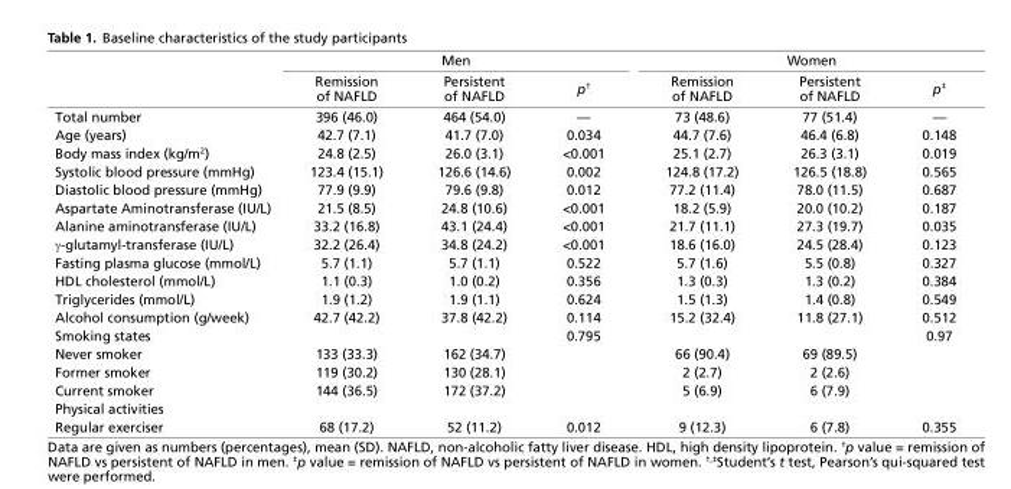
<table><thead><tr><td rowspan="2"></td><td colspan="3">Men</td><td colspan="3">Women</td></tr><tr><td>Remission of NAFLD</td><td>Persistent of NAFLD</td><td>p<sup>†</sup></td><td>Remission of NAFLD</td><td>Persistent of NAFLD</td><td>p<sup>‡</sup></td></tr></thead><tbody><tr><td>Total number</td><td>396 (46.0)</td><td>464 (54.0)</td><td>—</td><td>73 (48.6)</td><td>77 (51.4)</td><td>—</td></tr><tr><td>Age (years)</td><td>42.7 (7.1)</td><td>41.7 (7.0)</td><td>0.034</td><td>44.7 (7.6)</td><td>46.4 (6.8)</td><td>0.148</td></tr><tr><td>Body mass index (kg/m<sup>2</sup>)</td><td>24.8 (2.5)</td><td>26.0 (3.1)</td><td>&lt;0.001</td><td>25.1 (2.7)</td><td>26.3 (3.1)</td><td>0.019</td></tr><tr><td>Systolic blood pressure (mmHg)</td><td>123.4 (15.1)</td><td>126.6 (14.6)</td><td>0.002</td><td>124.8 (17.2)</td><td>126.5 (18.8)</td><td>0.565</td></tr><tr><td>Diastolic blood pressure (mmHg)</td><td>77.9 (9.9)</td><td>79.6 (9.8)</td><td>0.012</td><td>77.2 (11.4)</td><td>78.0 (11.5)</td><td>0.687</td></tr><tr><td>Aspartate Aminotransferase (IU/L)</td><td>21.5 (8.5)</td><td>24.8 (10.6)</td><td>&lt;0.001</td><td>18.2 (5.9)</td><td>20.0 (10.2)</td><td>0.187</td></tr><tr><td>Alanine aminotransferase (IU/L)</td><td>33.2 (16.8)</td><td>43.1 (24.4)</td><td>&lt;0.001</td><td>21.7 (11.1)</td><td>27.3 (19.7)</td><td>0.035</td></tr><tr><td>γ-glutamyl-transferase (IU/L)</td><td>32.2 (26.4)</td><td>34.8 (24.2)</td><td>&lt;0.001</td><td>18.6 (16.0)</td><td>24.5 (28.4)</td><td>0.123</td></tr><tr><td>Fasting plasma glucose (mmol/L)</td><td>5.7 (1.1)</td><td>5.7 (1.1)</td><td>0.522</td><td>5.7 (1.6)</td><td>5.5 (0.8)</td><td>0.327</td></tr><tr><td>HDL cholesterol (mmol/L)</td><td>1.1 (0.3)</td><td>1.0 (0.2)</td><td>0.356</td><td>1.3 (0.3)</td><td>1.3 (0.2)</td><td>0.384</td></tr><tr><td>Triglycerides (mmol/L)</td><td>1.9 (1.2)</td><td>1.9 (1.1)</td><td>0.624</td><td>1.5 (1.3)</td><td>1.4 (0.8)</td><td>0.549</td></tr><tr><td>Alcohol consumption (g/week)</td><td>42.7 (42.2)</td><td>37.8 (42.2)</td><td>0.114</td><td>15.2 (32.4)</td><td>11.8 (27.1)</td><td>0.512</td></tr><tr><td>Smoking states</td><td></td><td></td><td>0.795</td><td></td><td></td><td>0.97</td></tr><tr><td>Never smoker</td><td>133 (33.3)</td><td>162 (34.7)</td><td></td><td>66 (90.4)</td><td>69 (89.5)</td><td></td></tr><tr><td>Former smoker</td><td>119 (30.2)</td><td>130 (28.1)</td><td></td><td>2 (2.7)</td><td>2 (2.6)</td><td></td></tr><tr><td>Current smoker</td><td>144 (36.5)</td><td>172 (37.2)</td><td></td><td>5 (6.9)</td><td>6 (7.9)</td><td></td></tr><tr><td colspan="7">Physical activities</td></tr><tr><td>Regular exerciser</td><td>68 (17.2)</td><td>52 (11.2)</td><td>0.012</td><td>9 (12.3)</td><td>6 (7.8)</td><td>0.355</td></tr></tbody></table>